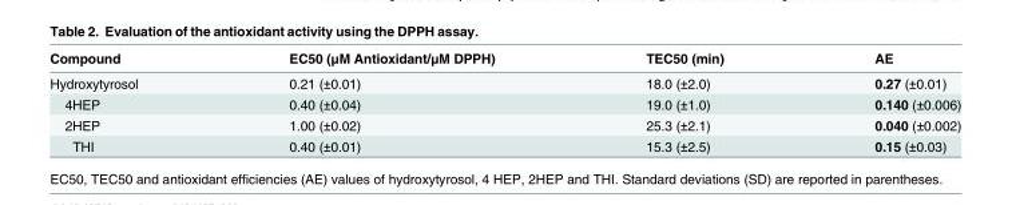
<table><thead><tr><td>Compound</td><td>EC50 (μM Antioxidant/μM DPPH)</td><td>TEC50 (min)</td><td>AE</td></tr></thead><tbody><tr><td>Hydroxytyrosol</td><td>0.21 (±0.01)</td><td>18.0 (±2.0)</td><td>0.27 (±0.01)</td></tr><tr><td>4HEP</td><td>0.40 (±0.04)</td><td>19.0 (±1.0)</td><td>0.140 (±0.006)</td></tr><tr><td>2HEP</td><td>1.00 (±0.02)</td><td>25.3 (±2.1)</td><td>0.040 (±0.002)</td></tr><tr><td>THI</td><td>0.40 (±0.01)</td><td>15.3 (±2.5)</td><td>0.15 (±0.03)</td></tr></tbody></table>